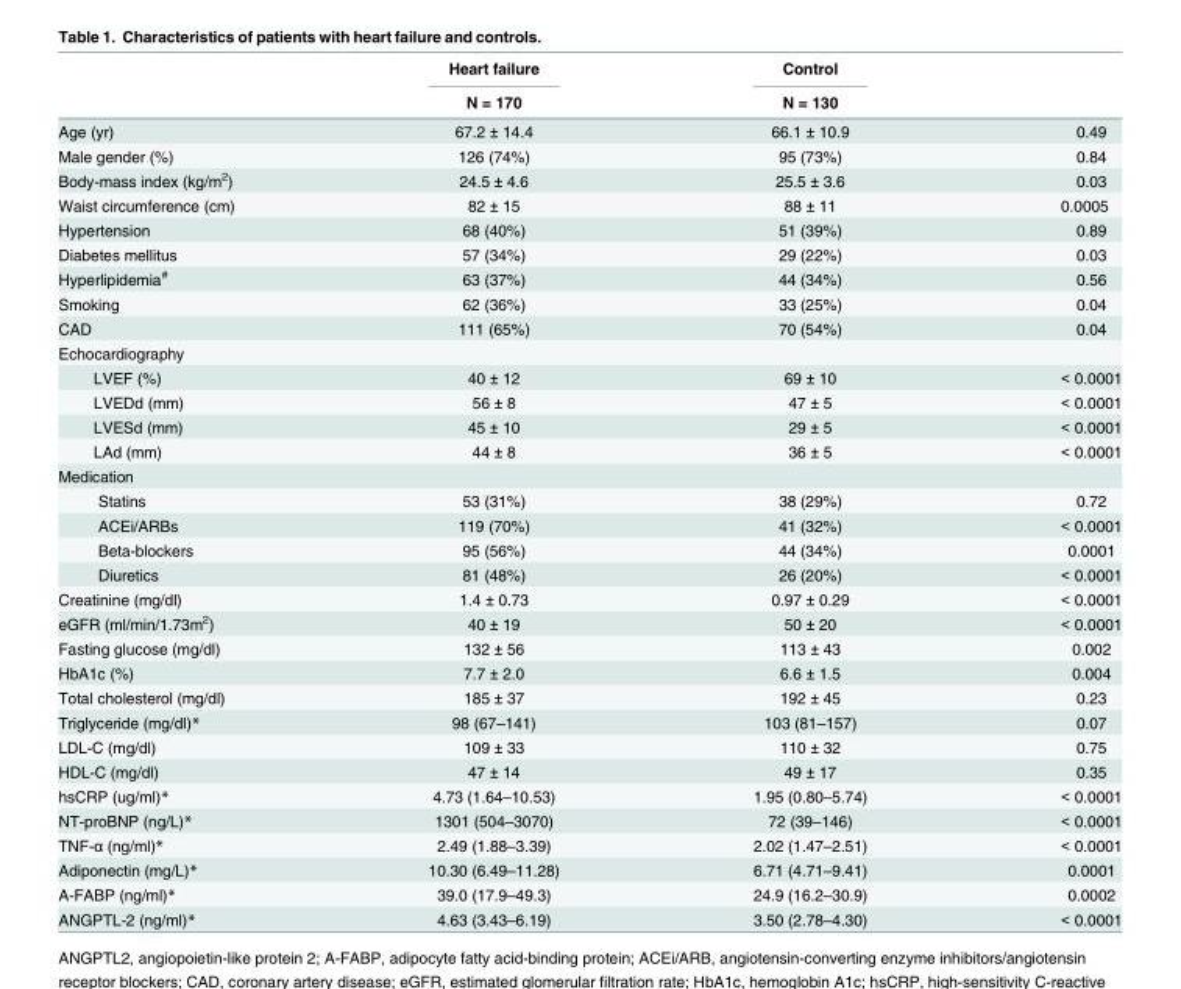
<table><thead><tr><td rowspan="2"></td><td rowspan="2">Heart failure N = 170</td><td rowspan="2">Control N = 130</td><td rowspan="2"></td></tr><tr></tr></thead><tbody><tr><td>Age (yr)</td><td>67.2 ± 14.4</td><td>66.1 ± 10.9</td><td>0.49</td></tr><tr><td>Male gender (%)</td><td>126 (74%)</td><td>95 (73%)</td><td>0.84</td></tr><tr><td>Body-mass index (kg/m<sup>2</sup>)</td><td>24.5 ± 4.6</td><td>25.5 ± 3.6</td><td>0.03</td></tr><tr><td>Waist circumference (cm)</td><td>82 ± 15</td><td>88 ± 11</td><td>0.0005</td></tr><tr><td>Hypertension</td><td>68 (40%)</td><td>51 (39%)</td><td>0.89</td></tr><tr><td>Diabetes mellitus</td><td>57 (34%)</td><td>29 (22%)</td><td>0.03</td></tr><tr><td>Hyperlipidemia<sup>#</sup></td><td>63 (37%)</td><td>44 (34%)</td><td>0.56</td></tr><tr><td>Smoking</td><td>62 (36%)</td><td>33 (25%)</td><td>0.04</td></tr><tr><td>CAD</td><td>111 (65%)</td><td>70 (54%)</td><td>0.04</td></tr><tr><td colspan="4">Echocardiography</td></tr><tr><td>LVEF (%)</td><td>40 ± 12</td><td>69 ± 10</td><td>&lt; 0.0001</td></tr><tr><td>LVEDd (mm)</td><td>56 ± 8</td><td>47 ± 5</td><td>&lt; 0.0001</td></tr><tr><td>LVESd (mm)</td><td>45 ± 10</td><td>29 ± 5</td><td>&lt; 0.0001</td></tr><tr><td>LAd (mm)</td><td>44 ± 8</td><td>36 ± 5</td><td>&lt; 0.0001</td></tr><tr><td colspan="4">Medication</td></tr><tr><td>Statins</td><td>53 (31%)</td><td>38 (29%)</td><td>0.72</td></tr><tr><td>ACEi/ARBs</td><td>119 (70%)</td><td>41 (32%)</td><td>&lt; 0.0001</td></tr><tr><td>Beta-blockers</td><td>95 (56%)</td><td>44 (34%)</td><td>0.0001</td></tr><tr><td>Diuretics</td><td>81 (48%)</td><td>26 (20%)</td><td>&lt; 0.0001</td></tr><tr><td>Creatinine (mg/dl)</td><td>1.4 ± 0.73</td><td>0.97 ± 0.29</td><td>&lt; 0.0001</td></tr><tr><td>eGFR (ml/min/1.73m<sup>2</sup>)</td><td>40 ± 19</td><td>50 ± 20</td><td>&lt; 0.0001</td></tr><tr><td>Fasting glucose (mg/dl)</td><td>132 ± 56</td><td>113 ± 43</td><td>0.002</td></tr><tr><td>HbA1c (%)</td><td>7.7 ± 2.0</td><td>6.6 ± 1.5</td><td>0.004</td></tr><tr><td>Total cholesterol (mg/dl)</td><td>185 ± 37</td><td>192 ± 45</td><td>0.23</td></tr><tr><td>Triglyceride (mg/dl)*</td><td>98 (67–141)</td><td>103 (81–157)</td><td>0.07</td></tr><tr><td>LDL-C (mg/dl)</td><td>109 ± 33</td><td>110 ± 32</td><td>0.75</td></tr><tr><td>HDL-C (mg/dl)</td><td>47 ± 14</td><td>49 ± 17</td><td>0.35</td></tr><tr><td>hsCRP (ug/ml)*</td><td>4.73 (1.64–10.53)</td><td>1.95 (0.80–5.74)</td><td>&lt; 0.0001</td></tr><tr><td>NT-proBNP (ng/L)*</td><td>1301 (504–3070)</td><td>72 (39–146)</td><td>&lt; 0.0001</td></tr><tr><td>TNF-α (ng/ml)*</td><td>2.49 (1.88–3.39)</td><td>2.02 (1.47–2.51)</td><td>&lt; 0.0001</td></tr><tr><td>Adiponectin (mg/L)*</td><td>10.30 (6.49–11.28)</td><td>6.71 (4.71–9.41)</td><td>0.0001</td></tr><tr><td>A-FABP (ng/ml)*</td><td>39.0 (17.9–49.3)</td><td>24.9 (16.2–30.9)</td><td>0.0002</td></tr><tr><td>ANGPTL-2 (ng/ml)*</td><td>4.63 (3.43–6.19)</td><td>3.50 (2.78–4.30)</td><td>&lt; 0.0001</td></tr></tbody></table>